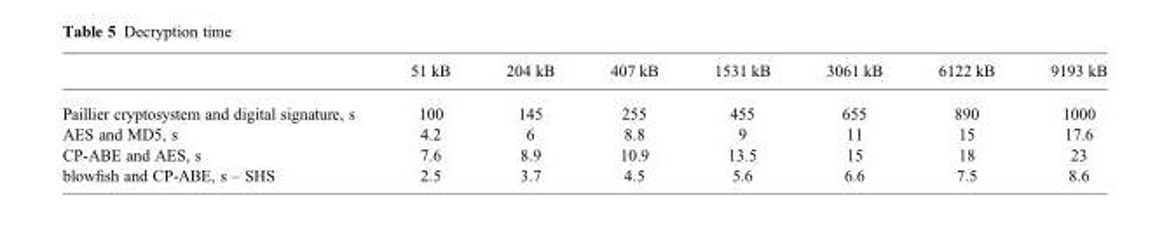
<table><thead><tr><td></td><td>51 kB</td><td>204 kB</td><td>407 kB</td><td>1531 kB</td><td>3061 kB</td><td>6122 kB</td><td>9193 kB</td></tr></thead><tbody><tr><td>Paillier cryptosystem and digital signature, s</td><td>100</td><td>145</td><td>255</td><td>455</td><td>655</td><td>890</td><td>1000</td></tr><tr><td>AES and MD5, s</td><td>4.2</td><td>6</td><td>8.8</td><td>9</td><td>11</td><td>15</td><td>17.6</td></tr><tr><td>CP-ABE and AES, s</td><td>7.6</td><td>8.9</td><td>10.9</td><td>13.5</td><td>15</td><td>18</td><td>23</td></tr><tr><td>blowfish and CP-ABE, s – SHS</td><td>2.5</td><td>3.7</td><td>4.5</td><td>5.6</td><td>6.6</td><td>7.5</td><td>8.6</td></tr></tbody></table>